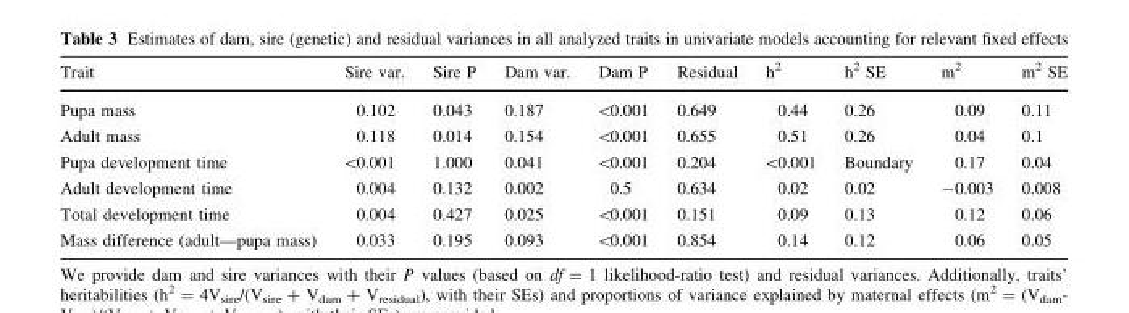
<table><thead><tr><td>Trait</td><td>Sire var.</td><td>Sire P</td><td>Dam var.</td><td>Dam P</td><td>Residual</td><td>h<sup>2</sup></td><td>h<sup>2</sup> SE</td><td>m<sup>2</sup></td><td>m<sup>2</sup> SE</td></tr></thead><tbody><tr><td>Pupa mass</td><td>0.102</td><td>0.043</td><td>0.187</td><td>&lt;0.001</td><td>0.649</td><td>0.44</td><td>0.26</td><td>0.09</td><td>0.11</td></tr><tr><td>Adult mass</td><td>0.118</td><td>0.014</td><td>0.154</td><td>&lt;0.001</td><td>0.655</td><td>0.51</td><td>0.26</td><td>0.04</td><td>0.1</td></tr><tr><td>Pupa development time</td><td>&lt;0.001</td><td>1.000</td><td>0.041</td><td>&lt;0.001</td><td>0.204</td><td>&lt;0.001</td><td>Boundary</td><td>0.17</td><td>0.04</td></tr><tr><td>Adult development time</td><td>0.004</td><td>0.132</td><td>0.002</td><td>0.5</td><td>0.634</td><td>0.02</td><td>0.02</td><td>-0.003</td><td>0.008</td></tr><tr><td>Total development time</td><td>0.004</td><td>0.427</td><td>0.025</td><td>&lt;0.001</td><td>0.151</td><td>0.09</td><td>0.13</td><td>0.12</td><td>0.06</td></tr><tr><td>Mass difference (adult—pupa mass)</td><td>0.033</td><td>0.195</td><td>0.093</td><td>&lt;0.001</td><td>0.854</td><td>0.14</td><td>0.12</td><td>0.06</td><td>0.05</td></tr></tbody></table>